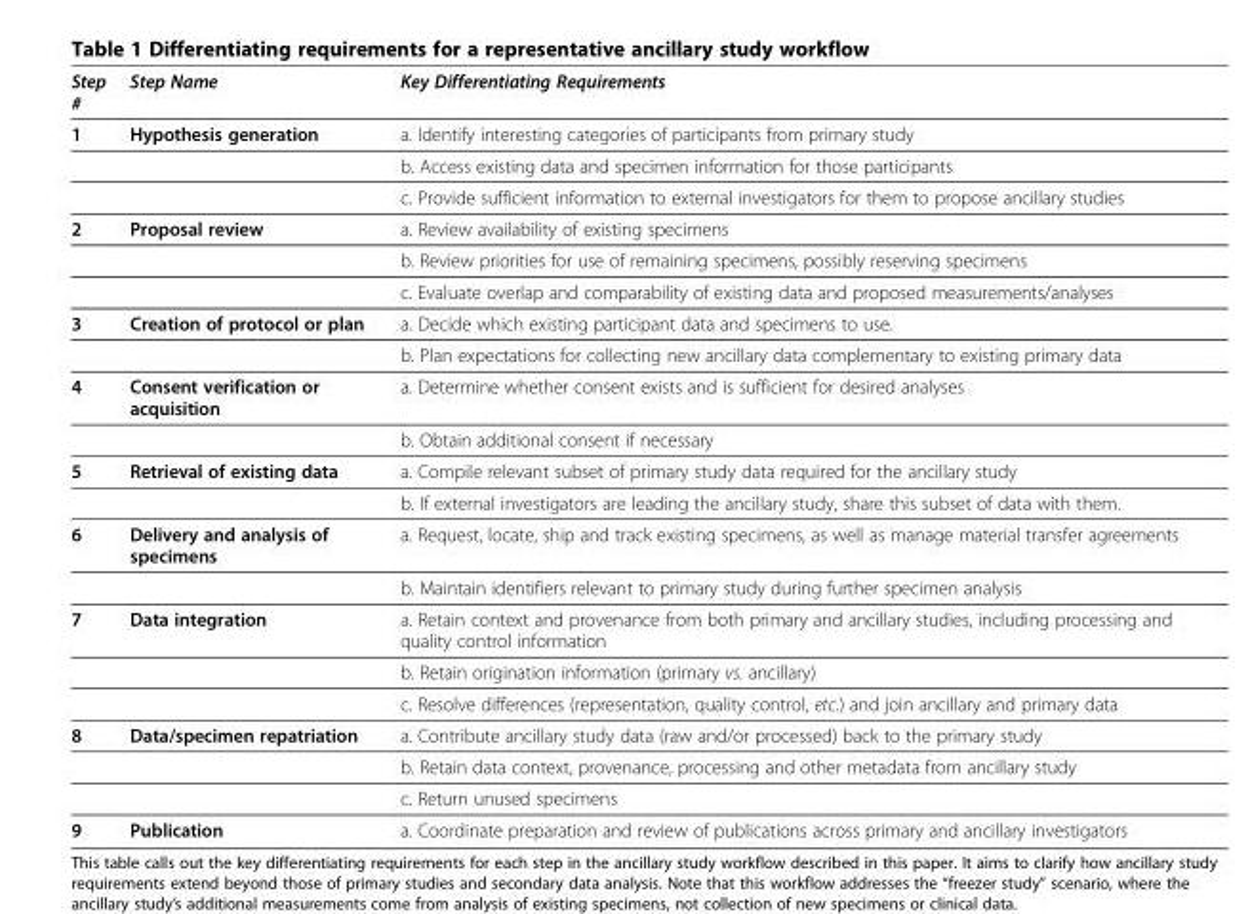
<table><thead><tr><td>Step #</td><td>Step Name</td><td>Key Differentiating Requirements</td></tr></thead><tbody><tr><td rowspan="3">1</td><td>Hypothesis generation</td><td>a. Identify interesting categories of participants from primary study</td></tr><tr><td></td><td>b. Access existing data and specimen information for those participants</td></tr><tr><td></td><td>c. Provide sufficient information to external investigators for them to propose ancillary studies</td></tr><tr><td rowspan="3">2</td><td>Proposal review</td><td>a. Review availability of existing specimens</td></tr><tr><td></td><td>b. Review priorities for use of remaining specimens, possibly reserving specimens</td></tr><tr><td></td><td>c. Evaluate overlap and comparability of existing data and proposed measurements/analyses</td></tr><tr><td rowspan="2">3</td><td>Creation of protocol or plan</td><td>a. Decide which existing participant data and specimens to use.</td></tr><tr><td></td><td>b. Plan expectations for collecting new ancillary data complementary to existing primary data</td></tr><tr><td rowspan="2">4</td><td>Consent verification or acquisition</td><td>a. Determine whether consent exists and is sufficient for desired analyses</td></tr><tr><td></td><td>b. Obtain additional consent if necessary</td></tr><tr><td rowspan="2">5</td><td>Retrieval of existing data</td><td>a. Compile relevant subset of primary study data required for the ancillary study</td></tr><tr><td></td><td>b. If external investigators are leading the ancillary study, share this subset of data with them.</td></tr><tr><td rowspan="2">6</td><td>Delivery and analysis of specimens</td><td>a. Request, locate, ship and track existing specimens, as well as manage material transfer agreements</td></tr><tr><td></td><td>b. Maintain identifiers relevant to primary study during further specimen analysis</td></tr><tr><td rowspan="3">7</td><td>Data integration</td><td>a. Retain context and provenance from both primary and ancillary studies, including processing and quality control information</td></tr><tr><td></td><td>b. Retain origination information (primary vs. ancillary)</td></tr><tr><td></td><td>c. Resolve differences (representation, quality control, etc.) and join ancillary and primary data</td></tr><tr><td rowspan="3">8</td><td>Data/specimen repatriation</td><td>a. Contribute ancillary study data (raw and/or processed) back to the primary study</td></tr><tr><td></td><td>b. Retain data context, provenance, processing and other metadata from ancillary study</td></tr><tr><td></td><td>c. Return unused specimens</td></tr><tr><td>9</td><td>Publication</td><td>a. Coordinate preparation and review of publications across primary and ancillary investigators</td></tr></tbody></table>